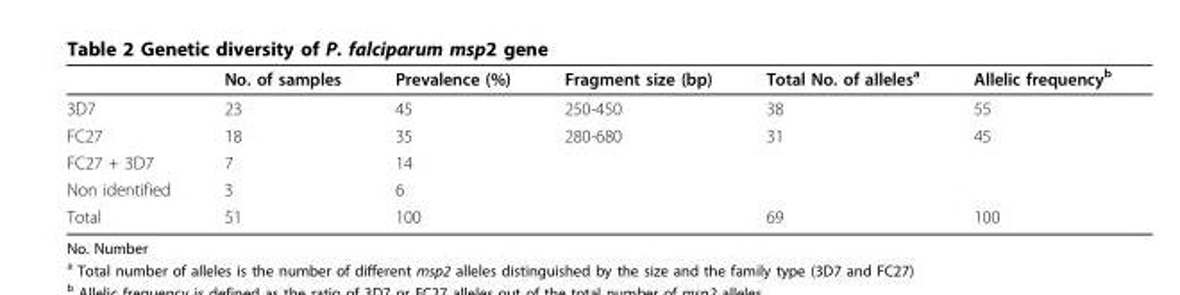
<table><thead><tr><td></td><td>No. of samples</td><td>Prevalence (%)</td><td>Fragment size (bp)</td><td>Total No. of alleles<sup>a</sup></td><td>Allelic frequency<sup>b</sup></td></tr></thead><tbody><tr><td>3D7</td><td>23</td><td>45</td><td>250-450</td><td>38</td><td>55</td></tr><tr><td>FC27</td><td>18</td><td>35</td><td>280-680</td><td>31</td><td>45</td></tr><tr><td>FC27 + 3D7</td><td>7</td><td>14</td><td></td><td></td><td></td></tr><tr><td>Non identified</td><td>3</td><td>6</td><td></td><td></td><td></td></tr><tr><td>Total</td><td>51</td><td>100</td><td></td><td>69</td><td>100</td></tr></tbody></table>